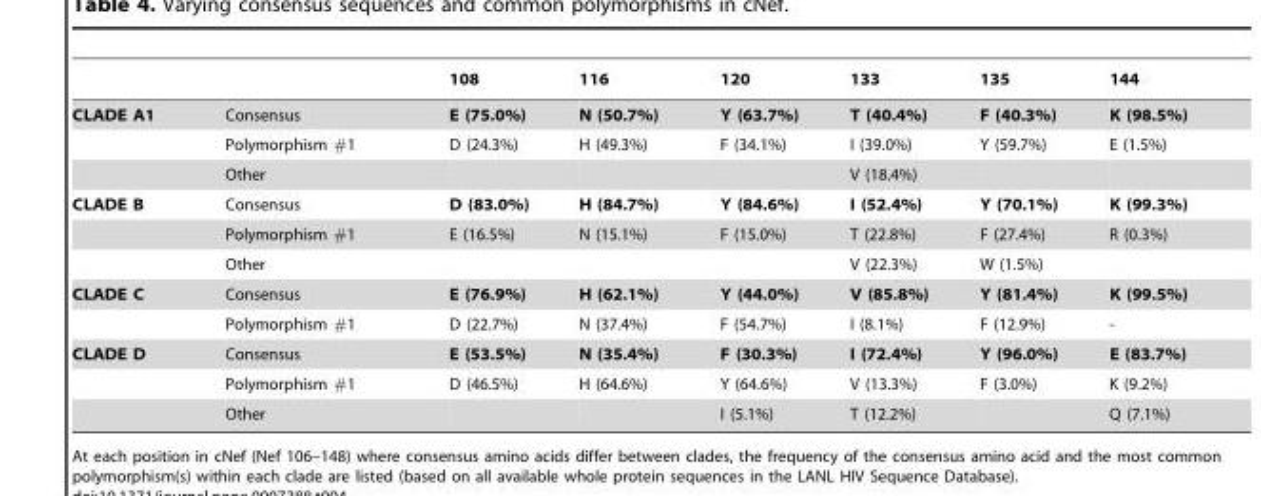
<table><thead><tr><td></td><td></td><td>108</td><td>116</td><td>120</td><td>133</td><td>135</td><td>144</td></tr></thead><tbody><tr><td rowspan="3">CLADE A1</td><td>Consensus</td><td>E (75.0%)</td><td>N (50.7%)</td><td>Y (63.7%)</td><td>T (40.4%)</td><td>F (40.3%)</td><td>K (98.5%)</td></tr><tr><td>Polymorphism #1</td><td>D (24.3%)</td><td>H (49.3%)</td><td>F (34.1%)</td><td>I (39.0%)</td><td>Y (59.7%)</td><td>E (1.5%)</td></tr><tr><td>Other</td><td></td><td></td><td></td><td>V (18.4%)</td><td></td><td></td></tr><tr><td rowspan="3">CLADE B</td><td>Consensus</td><td>D (83.0%)</td><td>H (84.7%)</td><td>Y (84.6%)</td><td>I (52.4%)</td><td>Y (70.1%)</td><td>K (99.3%)</td></tr><tr><td>Polymorphism #1</td><td>E (16.5%)</td><td>N (15.1%)</td><td>F (15.0%)</td><td>T (22.8%)</td><td>F (27.4%)</td><td>R (0.3%)</td></tr><tr><td>Other</td><td></td><td></td><td></td><td>V (22.3%)</td><td>W (1.5%)</td><td></td></tr><tr><td rowspan="2">CLADE C</td><td>Consensus</td><td>E (76.9%)</td><td>H (62.1%)</td><td>Y (44.0%)</td><td>V (85.8%)</td><td>Y (81.4%)</td><td>K (99.5%)</td></tr><tr><td>Polymorphism #1</td><td>D (22.7%)</td><td>N (37.4%)</td><td>F (54.7%)</td><td>I (8.1%)</td><td>F (12.9%)</td><td>-</td></tr><tr><td rowspan="3">CLADE D</td><td>Consensus</td><td>E (53.5%)</td><td>N (35.4%)</td><td>F (30.3%)</td><td>I (72.4%)</td><td>Y (96.0%)</td><td>E (83.7%)</td></tr><tr><td>Polymorphism #1</td><td>D (46.5%)</td><td>H (64.6%)</td><td>Y (64.6%)</td><td>V (13.3%)</td><td>F (3.0%)</td><td>K (9.2%)</td></tr><tr><td>Other</td><td></td><td></td><td>I (5.1%)</td><td>T (12.2%)</td><td></td><td>Q (7.1%)</td></tr></tbody></table>